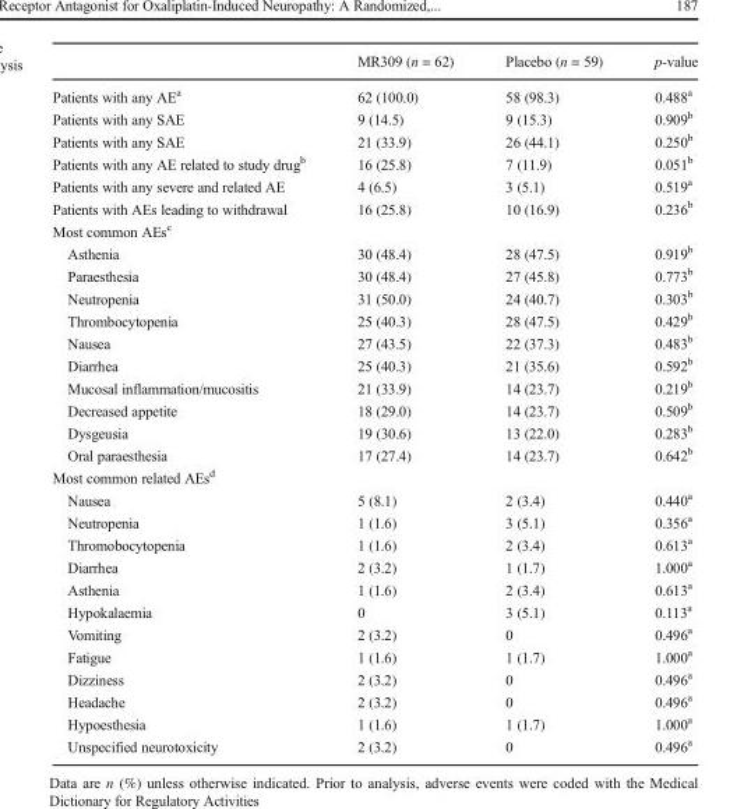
<table><thead><tr><td></td><td>MR309 (n = 62)</td><td>Placebo (n = 59)</td><td>p-value</td></tr></thead><tbody><tr><td>Patients with any AE<sup>a</sup></td><td>62 (100.0)</td><td>58 (98.3)</td><td>0.488<sup>a</sup></td></tr><tr><td>Patients with any SAE</td><td>9 (14.5)</td><td>9 (15.3)</td><td>0.909<sup>b</sup></td></tr><tr><td>Patients with any SAE</td><td>21 (33.9)</td><td>26 (44.1)</td><td>0.250<sup>b</sup></td></tr><tr><td>Patients with any AE related to study drug<sup>b</sup></td><td>16 (25.8)</td><td>7 (11.9)</td><td>0.051<sup>b</sup></td></tr><tr><td>Patients with any severe and related AE</td><td>4 (6.5)</td><td>3 (5.1)</td><td>0.519<sup>a</sup></td></tr><tr><td>Patients with AEs leading to withdrawal</td><td>16 (25.8)</td><td>10 (16.9)</td><td>0.236<sup>b</sup></td></tr><tr><td colspan="4">Most common AEs<sup>c</sup></td></tr><tr><td>Asthenia</td><td>30 (48.4)</td><td>28 (47.5)</td><td>0.919<sup>b</sup></td></tr><tr><td>Paraesthesia</td><td>30 (48.4)</td><td>27 (45.8)</td><td>0.773<sup>b</sup></td></tr><tr><td>Neutropenia</td><td>31 (50.0)</td><td>24 (40.7)</td><td>0.303<sup>b</sup></td></tr><tr><td>Thrombocytopenia</td><td>25 (40.3)</td><td>28 (47.5)</td><td>0.429<sup>b</sup></td></tr><tr><td>Nausea</td><td>27 (43.5)</td><td>22 (37.3)</td><td>0.483<sup>b</sup></td></tr><tr><td>Diarrhea</td><td>25 (40.3)</td><td>21 (35.6)</td><td>0.592<sup>b</sup></td></tr><tr><td>Mucosal inflammation/mucositis</td><td>21 (33.9)</td><td>14 (23.7)</td><td>0.219<sup>b</sup></td></tr><tr><td>Decreased appetite</td><td>18 (29.0)</td><td>14 (23.7)</td><td>0.509<sup>b</sup></td></tr><tr><td>Dysgeusia</td><td>19 (30.6)</td><td>13 (22.0)</td><td>0.283<sup>b</sup></td></tr><tr><td>Oral paraesthesia</td><td>17 (27.4)</td><td>14 (23.7)</td><td>0.642<sup>b</sup></td></tr><tr><td colspan="4">Most common related AEs<sup>d</sup></td></tr><tr><td>Nausea</td><td>5 (8.1)</td><td>2 (3.4)</td><td>0.440<sup>a</sup></td></tr><tr><td>Neutropenia</td><td>1 (1.6)</td><td>3 (5.1)</td><td>0.356<sup>a</sup></td></tr><tr><td>Thromobocytopenia</td><td>1 (1.6)</td><td>2 (3.4)</td><td>0.613<sup>a</sup></td></tr><tr><td>Diarrhea</td><td>2 (3.2)</td><td>1 (1.7)</td><td>1.000<sup>a</sup></td></tr><tr><td>Asthenia</td><td>1 (1.6)</td><td>2 (3.4)</td><td>0.613<sup>a</sup></td></tr><tr><td>Hypokalaemia</td><td>0</td><td>3 (5.1)</td><td>0.113<sup>a</sup></td></tr><tr><td>Vomiting</td><td>2 (3.2)</td><td>0</td><td>0.496<sup>a</sup></td></tr><tr><td>Fatigue</td><td>1 (1.6)</td><td>1 (1.7)</td><td>1.000<sup>a</sup></td></tr><tr><td>Dizziness</td><td>2 (3.2)</td><td>0</td><td>0.496<sup>a</sup></td></tr><tr><td>Headache</td><td>2 (3.2)</td><td>0</td><td>0.496<sup>a</sup></td></tr><tr><td>Hypoesthesia</td><td>1 (1.6)</td><td>1 (1.7)</td><td>1.000<sup>a</sup></td></tr><tr><td>Unspecified neurotoxicity</td><td>2 (3.2)</td><td>0</td><td>0.496<sup>a</sup></td></tr></tbody></table>